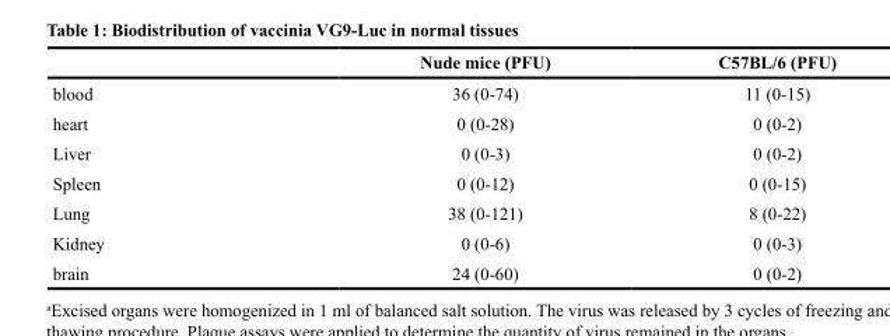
<table><thead><tr><td></td><td>Nude mice (PFU)</td><td>C57BL/6 (PFU)</td></tr></thead><tbody><tr><td>blood</td><td>36 (0-74)</td><td>11 (0-15)</td></tr><tr><td>heart</td><td>0 (0-28)</td><td>0 (0-2)</td></tr><tr><td>Liver</td><td>0 (0-3)</td><td>0 (0-2)</td></tr><tr><td>Spleen</td><td>0 (0-12)</td><td>0 (0-15)</td></tr><tr><td>Lung</td><td>38 (0-121)</td><td>8 (0-22)</td></tr><tr><td>Kidney</td><td>0 (0-6)</td><td>0 (0-3)</td></tr><tr><td>brain</td><td>24 (0-60)</td><td>0 (0-2)</td></tr></tbody></table>